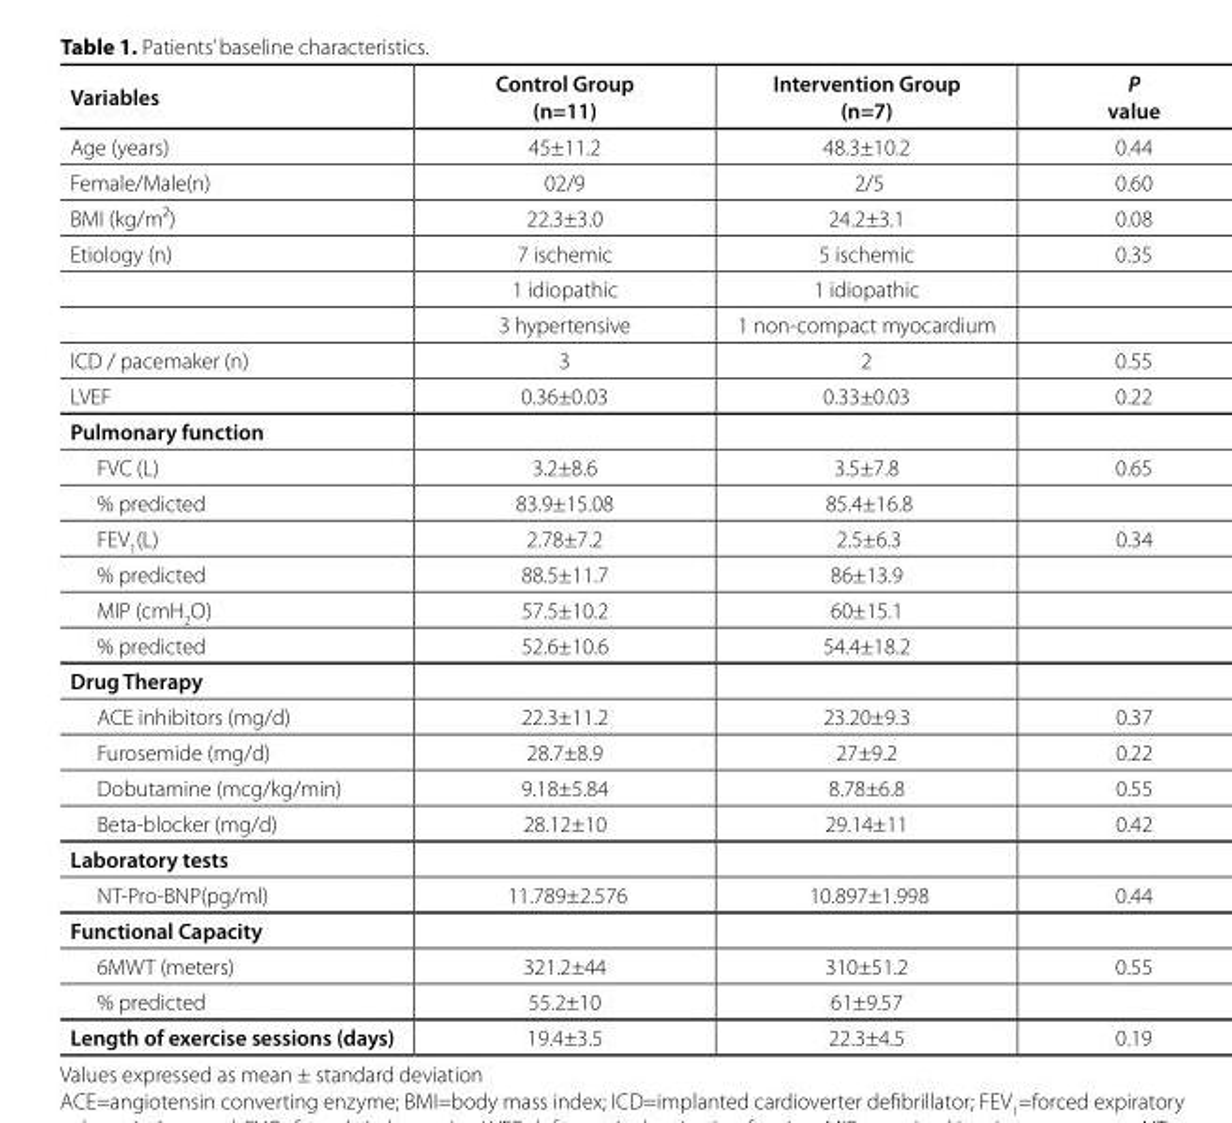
<table><thead><tr><td>Variables</td><td>Control Group (n=11)</td><td>Intervention Group (n=7)</td><td>P value</td></tr></thead><tbody><tr><td>Age (years)</td><td>45±11.2</td><td>48.3±10.2</td><td>0.44</td></tr><tr><td>Female/Male(n)</td><td>02/9</td><td>2/5</td><td>0.60</td></tr><tr><td>BMI (kg/m²)</td><td>22.3±3.0</td><td>24.2±3.1</td><td>0.08</td></tr><tr><td rowspan="3">Etiology (n)</td><td>7 ischemic</td><td>5 ischemic</td><td>0.35</td></tr><tr><td>1 idiopathic</td><td>1 idiopathic</td><td></td></tr><tr><td>3 hypertensive</td><td>1 non-compact myocardium</td><td></td></tr><tr><td>ICD / pacemaker (n)</td><td>3</td><td>2</td><td>0.55</td></tr><tr><td>LVEF</td><td>0.36±0.03</td><td>0.33±0.03</td><td>0.22</td></tr><tr><td colspan="4">Pulmonary function</td></tr><tr><td>FVC (L)</td><td>3.2±8.6</td><td>3.5±7.8</td><td>0.65</td></tr><tr><td>% predicted</td><td>83.9±15.08</td><td>85.4±16.8</td><td></td></tr><tr><td>FEV<sub>1</sub>(L)</td><td>2.78±7.2</td><td>2.5±6.3</td><td>0.34</td></tr><tr><td>% predicted</td><td>88.5±11.7</td><td>86±13.9</td><td></td></tr><tr><td>MIP (cmH<sub>2</sub>O)</td><td>57.5±10.2</td><td>60±15.1</td><td></td></tr><tr><td>% predicted</td><td>52.6±10.6</td><td>54.4±18.2</td><td></td></tr><tr><td colspan="4">Drug Therapy</td></tr><tr><td>ACE inhibitors (mg/d)</td><td>22.3±11.2</td><td>23.20±9.3</td><td>0.37</td></tr><tr><td>Furosemide (mg/d)</td><td>28.7±8.9</td><td>27±9.2</td><td>0.22</td></tr><tr><td>Dobutamine (mcg/kg/min)</td><td>9.18±5.84</td><td>8.78±6.8</td><td>0.55</td></tr><tr><td>Beta-blocker (mg/d)</td><td>28.12±10</td><td>29.14±11</td><td>0.42</td></tr><tr><td colspan="4">Laboratory tests</td></tr><tr><td>NT-Pro-BNP(pg/ml)</td><td>11.789±2.576</td><td>10.897±1.998</td><td>0.44</td></tr><tr><td colspan="4">Functional Capacity</td></tr><tr><td>6MWT (meters)</td><td>321.2±44</td><td>310±51.2</td><td>0.55</td></tr><tr><td>% predicted</td><td>55.2±10</td><td>61±9.57</td><td></td></tr><tr><td>Length of exercise sessions (days)</td><td>19.4±3.5</td><td>22.3±4.5</td><td>0.19</td></tr></tbody></table>